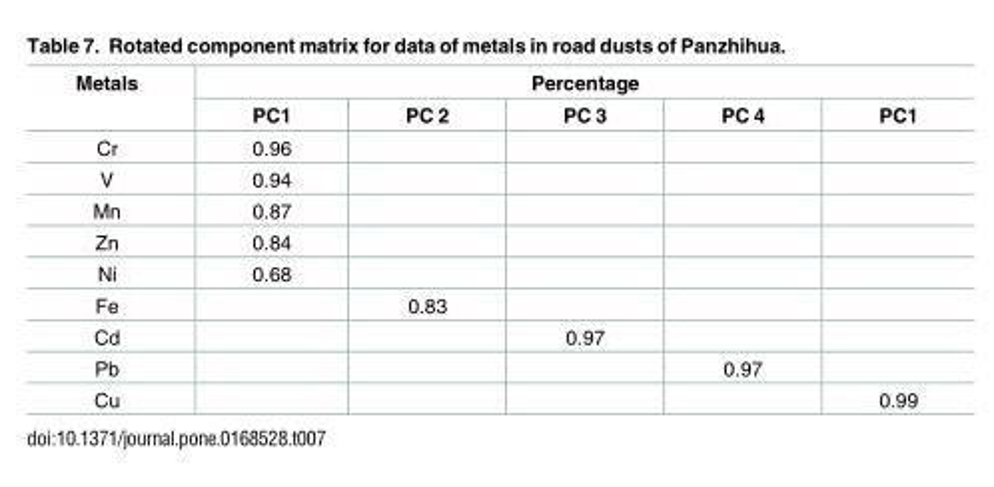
<table><thead><tr><td rowspan="2">Metals</td><td colspan="5">Percentage</td></tr><tr><td>PC1</td><td>PC 2</td><td>PC 3</td><td>PC 4</td><td>PC1</td></tr></thead><tbody><tr><td>Cr</td><td>0.96</td><td></td><td></td><td></td><td></td></tr><tr><td>V</td><td>0.94</td><td></td><td></td><td></td><td></td></tr><tr><td>Mn</td><td>0.87</td><td></td><td></td><td></td><td></td></tr><tr><td>Zn</td><td>0.84</td><td></td><td></td><td></td><td></td></tr><tr><td>Ni</td><td>0.68</td><td></td><td></td><td></td><td></td></tr><tr><td>Fe</td><td></td><td>0.83</td><td></td><td></td><td></td></tr><tr><td>Cd</td><td></td><td></td><td>0.97</td><td></td><td></td></tr><tr><td>Pb</td><td></td><td></td><td></td><td>0.97</td><td></td></tr><tr><td>Cu</td><td></td><td></td><td></td><td></td><td>0.99</td></tr></tbody></table>